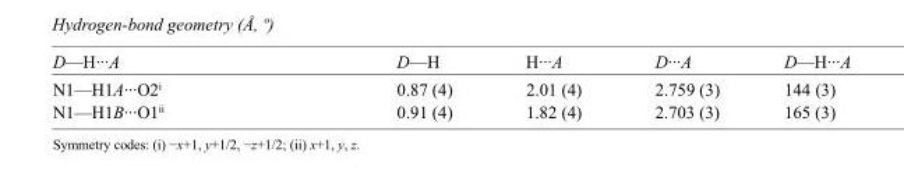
<table><tbody><tr><td>D—H···A</td><td>D—H</td><td>H···A</td><td>D···A</td><td>D—H···A</td></tr><tr><td>N1—H1A···O2<sup>i</sup></td><td>0.87 (4)</td><td>2.01 (4)</td><td>2.759 (3)</td><td>144 (3)</td></tr><tr><td>N1—H1B···O1<sup>ii</sup></td><td>0.91 (4)</td><td>1.82 (4)</td><td>2.703 (3)</td><td>165 (3)</td></tr></tbody></table>